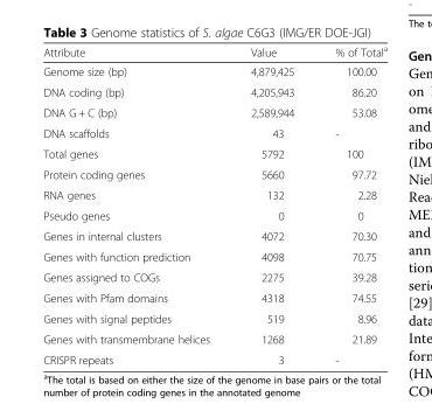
<table><thead><tr><td>Attribute</td><td>Value</td><td>% of Total<sup>a</sup></td></tr></thead><tbody><tr><td>Genome size (bp)</td><td>4,879,425</td><td>100.00</td></tr><tr><td>DNA coding (bp)</td><td>4,205,943</td><td>86.20</td></tr><tr><td>DNA G + C (bp)</td><td>2,589,944</td><td>53.08</td></tr><tr><td>DNA scaffolds</td><td>43</td><td>-</td></tr><tr><td>Total genes</td><td>5792</td><td>100</td></tr><tr><td>Protein coding genes</td><td>5660</td><td>97.72</td></tr><tr><td>RNA genes</td><td>132</td><td>2.28</td></tr><tr><td>Pseudo genes</td><td>0</td><td>0</td></tr><tr><td>Genes in internal clusters</td><td>4072</td><td>70.30</td></tr><tr><td>Genes with function prediction</td><td>4098</td><td>70.75</td></tr><tr><td>Genes assigned to COGs</td><td>2275</td><td>39.28</td></tr><tr><td>Genes with Pfam domains</td><td>4318</td><td>74.55</td></tr><tr><td>Genes with signal peptides</td><td>519</td><td>8.96</td></tr><tr><td>Genes with transmembrane helices</td><td>1268</td><td>21.89</td></tr><tr><td>CRISPR repeats</td><td>3</td><td>-</td></tr></tbody></table>